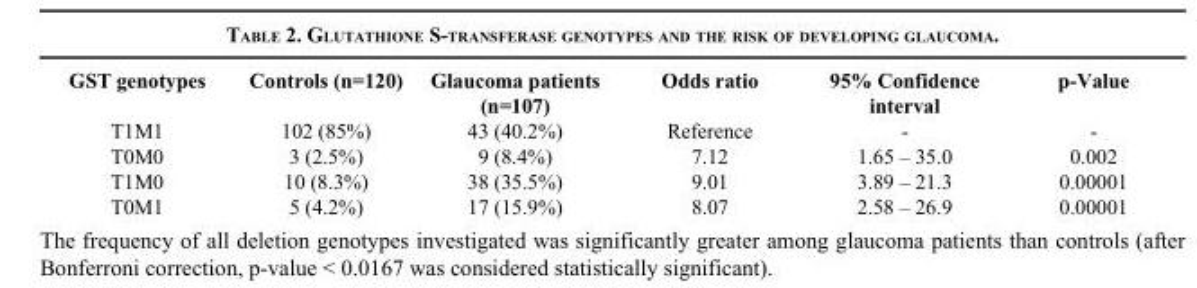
<table><thead><tr><td>GST genotypes</td><td>Controls (n=120)</td><td>Glaucoma patients (n=107)</td><td>Odds ratio</td><td>95% Confidence interval</td><td>p-Value</td></tr></thead><tbody><tr><td>T1M1</td><td>102 (85%)</td><td>43 (40.2%)</td><td>Reference</td><td>-</td><td>-</td></tr><tr><td>T0M0</td><td>3 (2.5%)</td><td>9 (8.4%)</td><td>7.12</td><td>1.65 – 35.0</td><td>0.002</td></tr><tr><td>T1M0</td><td>10 (8.3%)</td><td>38 (35.5%)</td><td>9.01</td><td>3.89 – 21.3</td><td>0.00001</td></tr><tr><td>T0M1</td><td>5 (4.2%)</td><td>17 (15.9%)</td><td>8.07</td><td>2.58 – 26.9</td><td>0.00001</td></tr></tbody></table>